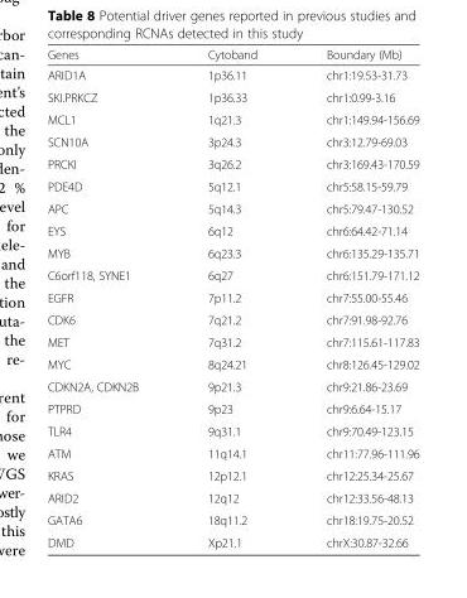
<table><thead><tr><td>Genes</td><td>Cytoband</td><td>Boundary (Mb)</td></tr></thead><tbody><tr><td>ARID1A</td><td>1p36.11</td><td>chr1:19.53-31.73</td></tr><tr><td>SKI.PRKCZ</td><td>1p36.33</td><td>chr1:0.99-3.16</td></tr><tr><td>MCL1</td><td>1q21.3</td><td>chr1:149.94-156.69</td></tr><tr><td>SCN10A</td><td>3p24.3</td><td>chr3:12.79-69.03</td></tr><tr><td>PRCKI</td><td>3q26.2</td><td>chr3:169.43-170.59</td></tr><tr><td>PDE4D</td><td>5q12.1</td><td>chr5:58.15-59.79</td></tr><tr><td>APC</td><td>5q14.3</td><td>chr5:79.47-130.52</td></tr><tr><td>EYS</td><td>6q12</td><td>chr6:64.42-71.14</td></tr><tr><td>MYB</td><td>6q23.3</td><td>chr6:135.29-135.71</td></tr><tr><td>C6orf118, SYNE1</td><td>6q27</td><td>chr6:151.79-171.12</td></tr><tr><td>EGFR</td><td>7p11.2</td><td>chr7:55.00-55.46</td></tr><tr><td>CDK6</td><td>7q21.2</td><td>chr7:91.98-92.76</td></tr><tr><td>MET</td><td>7q31.2</td><td>chr7:115.61-117.83</td></tr><tr><td>MYC</td><td>8q24.21</td><td>chr8:126.45-129.02</td></tr><tr><td>CDKN2A, CDKN2B</td><td>9p21.3</td><td>chr9:21.86-23.69</td></tr><tr><td>PTPRD</td><td>9p23</td><td>chr9:6.64-15.17</td></tr><tr><td>TLR4</td><td>9q31.1</td><td>chr9:70.49-123.15</td></tr><tr><td>ATM</td><td>11q14.1</td><td>chr11:77.96-111.96</td></tr><tr><td>KRAS</td><td>12p12.1</td><td>chr12:25.34-25.67</td></tr><tr><td>ARID2</td><td>12q12</td><td>chr12:33.56-48.13</td></tr><tr><td>GATA6</td><td>18q11.2</td><td>chr18:19.75-20.52</td></tr><tr><td>DMD</td><td>Xp21.1</td><td>chrX:30.87-32.66</td></tr></tbody></table>